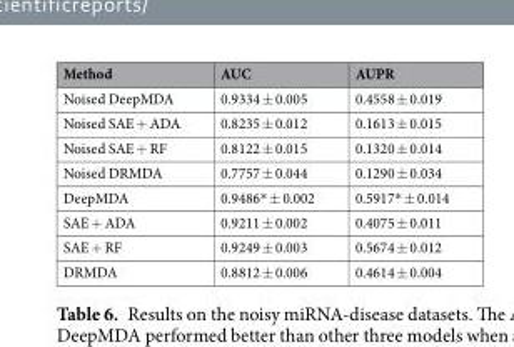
<table><thead><tr><td>Method</td><td>AUC</td><td>AUPR</td></tr></thead><tbody><tr><td>Noised DeepMDA</td><td>0.9334 ± 0.005</td><td>0.4558 ± 0.019</td></tr><tr><td>Noised SAE + ADA</td><td>0.8235 ± 0.012</td><td>0.1613 ± 0.015</td></tr><tr><td>Noised SAE + RF</td><td>0.8122 ± 0.015</td><td>0.1320 ± 0.014</td></tr><tr><td>Noised DRMDA</td><td>0.7757 ± 0.044</td><td>0.1290 ± 0.034</td></tr><tr><td>DeepMDA</td><td>0.9486* ± 0.002</td><td>0.5917* ± 0.014</td></tr><tr><td>SAE + ADA</td><td>0.9211 ± 0.002</td><td>0.4075 ± 0.011</td></tr><tr><td>SAE + RF</td><td>0.9249 ± 0.003</td><td>0.5674 ± 0.012</td></tr><tr><td>DRMDA</td><td>0.8812 ± 0.006</td><td>0.4614 ± 0.004</td></tr></tbody></table>